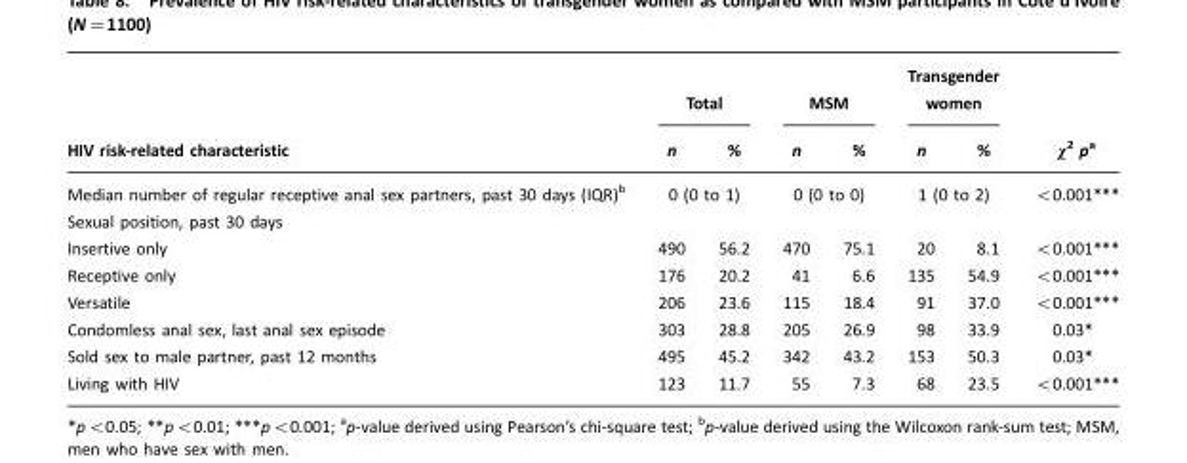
<table><thead><tr><td rowspan="2">HIV risk-related characteristic</td><td colspan="2">Total</td><td colspan="2">MSM</td><td colspan="2">Transgender women</td><td rowspan="2">χ<sup>2</sup> p<sup>a</sup></td></tr><tr><td>n</td><td>%</td><td>n</td><td>%</td><td>n</td><td>%</td></tr></thead><tbody><tr><td>Median number of regular receptive anal sex partners, past 30 days (IQR)<sup>b</sup></td><td colspan="2">0 (0 to 1)</td><td colspan="2">0 (0 to 0)</td><td colspan="2">1 (0 to 2)</td><td>&lt;0.001***</td></tr><tr><td colspan="8">Sexual position, past 30 days</td></tr><tr><td>Insertive only</td><td>490</td><td>56.2</td><td>470</td><td>75.1</td><td>20</td><td>8.1</td><td>&lt;0.001***</td></tr><tr><td>Receptive only</td><td>176</td><td>20.2</td><td>41</td><td>6.6</td><td>135</td><td>54.9</td><td>&lt;0.001***</td></tr><tr><td>Versatile</td><td>206</td><td>23.6</td><td>115</td><td>18.4</td><td>91</td><td>37.0</td><td>&lt;0.001***</td></tr><tr><td>Condomless anal sex, last anal sex episode</td><td>303</td><td>28.8</td><td>205</td><td>26.9</td><td>98</td><td>33.9</td><td>0.03*</td></tr><tr><td>Sold sex to male partner, past 12 months</td><td>495</td><td>45.2</td><td>342</td><td>43.2</td><td>153</td><td>50.3</td><td>0.03*</td></tr><tr><td>Living with HIV</td><td>123</td><td>11.7</td><td>55</td><td>7.3</td><td>68</td><td>23.5</td><td>&lt;0.001***</td></tr></tbody></table>